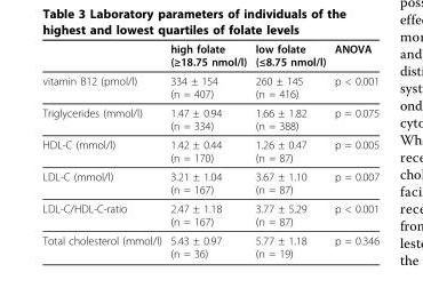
<table><thead><tr><td></td><td>high folate (≥18.75 nmol/l)</td><td>low folate (≤8.75 nmol/l)</td><td>ANOVA</td></tr></thead><tbody><tr><td>vitamin B12 (pmol/l)</td><td>334 ± 154 (n = 407)</td><td>260 ± 145 (n = 416)</td><td>p &lt; 0.001</td></tr><tr><td>Triglycerides (mmol/l)</td><td>1.47 ± 0.94 (n = 334)</td><td>1.66 ± 1.82 (n = 388)</td><td>p = 0.075</td></tr><tr><td>HDL-C (mmol/l)</td><td>1.42 ± 0.44 (n = 170)</td><td>1.26 ± 0.47 (n = 87)</td><td>p = 0.005</td></tr><tr><td>LDL-C (mmol/l)</td><td>3.21 ± 1.04 (n = 167)</td><td>3.67 ± 1.10 (n = 87)</td><td>p = 0.007</td></tr><tr><td>LDL-C/HDL-C-ratio</td><td>2.47 ± 1.18 (n = 167)</td><td>3.77 ± 5.29 (n = 87)</td><td>p &lt; 0.001</td></tr><tr><td>Total cholesterol (mmol/l)</td><td>5.43 ± 0.97 (n = 36)</td><td>5.77 ± 1.18 (n = 19)</td><td>p = 0.346</td></tr></tbody></table>